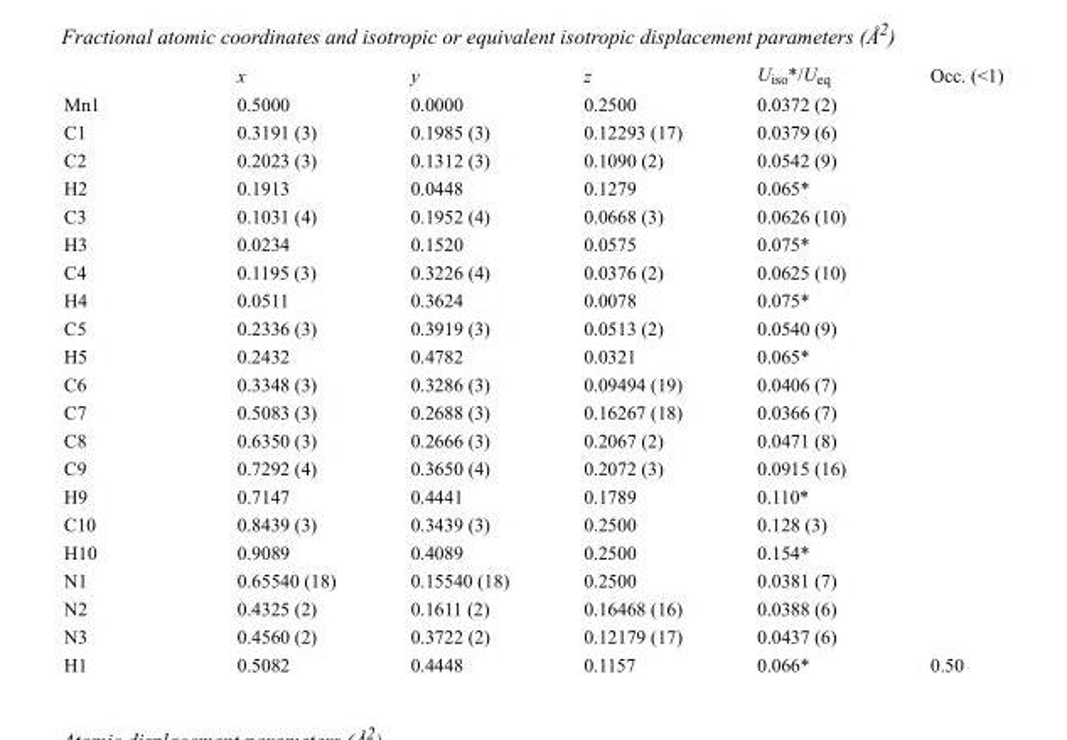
<table><thead><tr><td></td><td>x</td><td>y</td><td>z</td><td>U<sub>iso</sub>*/U<sub>eq</sub></td><td>Occ. (&lt;1)</td></tr></thead><tbody><tr><td>Mn1</td><td>0.5000</td><td>0.0000</td><td>0.2500</td><td>0.0372 (2)</td><td></td></tr><tr><td>C1</td><td>0.3191 (3)</td><td>0.1985 (3)</td><td>0.12293 (17)</td><td>0.0379 (6)</td><td></td></tr><tr><td>C2</td><td>0.2023 (3)</td><td>0.1312 (3)</td><td>0.1090 (2)</td><td>0.0542 (9)</td><td></td></tr><tr><td>H2</td><td>0.1913</td><td>0.0448</td><td>0.1279</td><td>0.065*</td><td></td></tr><tr><td>C3</td><td>0.1031 (4)</td><td>0.1952 (4)</td><td>0.0668 (3)</td><td>0.0626 (10)</td><td></td></tr><tr><td>H3</td><td>0.0234</td><td>0.1520</td><td>0.0575</td><td>0.075*</td><td></td></tr><tr><td>C4</td><td>0.1195 (3)</td><td>0.3226 (4)</td><td>0.0376 (2)</td><td>0.0625 (10)</td><td></td></tr><tr><td>H4</td><td>0.0511</td><td>0.3624</td><td>0.0078</td><td>0.075*</td><td></td></tr><tr><td>C5</td><td>0.2336 (3)</td><td>0.3919 (3)</td><td>0.0513 (2)</td><td>0.0540 (9)</td><td></td></tr><tr><td>H5</td><td>0.2432</td><td>0.4782</td><td>0.0321</td><td>0.065*</td><td></td></tr><tr><td>C6</td><td>0.3348 (3)</td><td>0.3286 (3)</td><td>0.09494 (19)</td><td>0.0406 (7)</td><td></td></tr><tr><td>C7</td><td>0.5083 (3)</td><td>0.2688 (3)</td><td>0.16267 (18)</td><td>0.0366 (7)</td><td></td></tr><tr><td>C8</td><td>0.6350 (3)</td><td>0.2666 (3)</td><td>0.2067 (2)</td><td>0.0471 (8)</td><td></td></tr><tr><td>C9</td><td>0.7292 (4)</td><td>0.3650 (4)</td><td>0.2072 (3)</td><td>0.0915 (16)</td><td></td></tr><tr><td>H9</td><td>0.7147</td><td>0.4441</td><td>0.1789</td><td>0.110*</td><td></td></tr><tr><td>C10</td><td>0.8439 (3)</td><td>0.3439 (3)</td><td>0.2500</td><td>0.128 (3)</td><td></td></tr><tr><td>H10</td><td>0.9089</td><td>0.4089</td><td>0.2500</td><td>0.154*</td><td></td></tr><tr><td>N1</td><td>0.65540 (18)</td><td>0.15540 (18)</td><td>0.2500</td><td>0.0381 (7)</td><td></td></tr><tr><td>N2</td><td>0.4325 (2)</td><td>0.1611 (2)</td><td>0.16468 (16)</td><td>0.0388 (6)</td><td></td></tr><tr><td>N3</td><td>0.4560 (2)</td><td>0.3722 (2)</td><td>0.12179 (17)</td><td>0.0437 (6)</td><td></td></tr><tr><td>H1</td><td>0.5082</td><td>0.4448</td><td>0.1157</td><td>0.066*</td><td>0.50</td></tr></tbody></table>